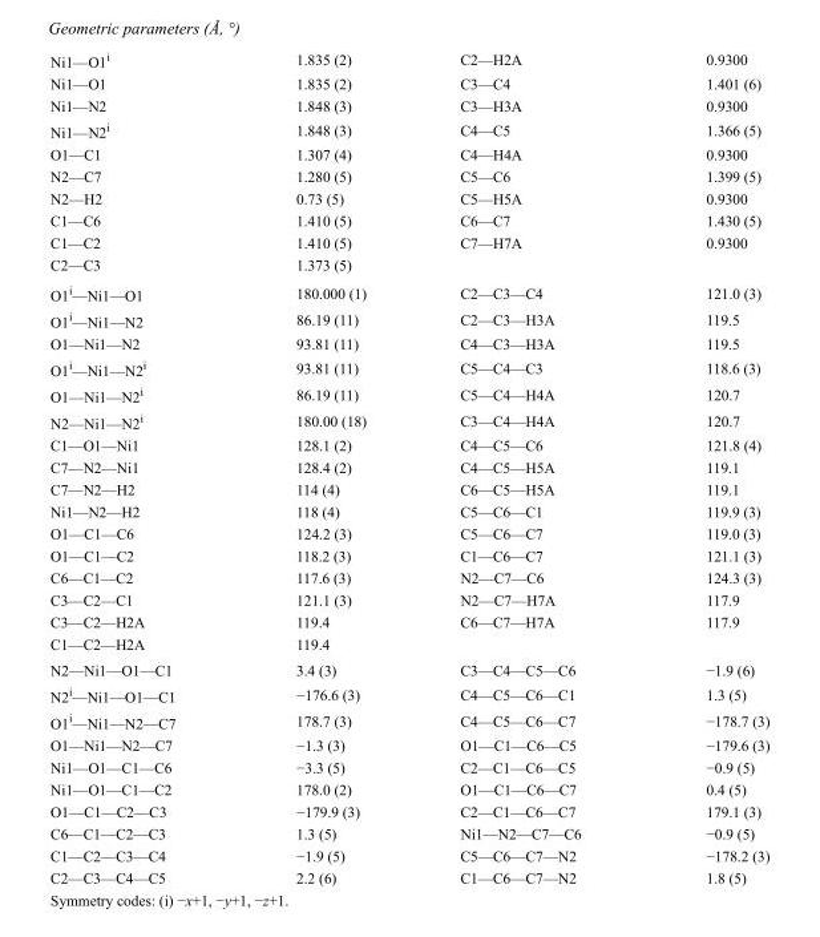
<table><tbody><tr><td>Ni1—O1<sup>i</sup></td><td>1.835 (2)</td><td>C2—H2A</td><td>0.9300</td></tr><tr><td>Ni1—O1</td><td>1.835 (2)</td><td>C3—C4</td><td>1.401 (6)</td></tr><tr><td>Ni1—N2</td><td>1.848 (3)</td><td>C3—H3A</td><td>0.9300</td></tr><tr><td>Ni1—N2<sup>i</sup></td><td>1.848 (3)</td><td>C4—C5</td><td>1.366 (5)</td></tr><tr><td>O1—C1</td><td>1.307 (4)</td><td>C4—H4A</td><td>0.9300</td></tr><tr><td>N2—C7</td><td>1.280 (5)</td><td>C5—C6</td><td>1.399 (5)</td></tr><tr><td>N2—H2</td><td>0.73 (5)</td><td>C5—H5A</td><td>0.9300</td></tr><tr><td>C1—C6</td><td>1.410 (5)</td><td>C6—C7</td><td>1.430 (5)</td></tr><tr><td>C1—C2</td><td>1.410 (5)</td><td>C7—H7A</td><td>0.9300</td></tr><tr><td>C2—C3</td><td>1.373 (5)</td><td></td><td></td></tr><tr><td>O1<sup>i</sup>—Ni1—O1</td><td>180.000 (1)</td><td>C2—C3—C4</td><td>121.0 (3)</td></tr><tr><td>O1<sup>i</sup>—Ni1—N2</td><td>86.19 (11)</td><td>C2—C3—H3A</td><td>119.5</td></tr><tr><td>O1—Ni1—N2</td><td>93.81 (11)</td><td>C4—C3—H3A</td><td>119.5</td></tr><tr><td>O1<sup>i</sup>—Ni1—N2<sup>i</sup></td><td>93.81 (11)</td><td>C5—C4—C3</td><td>118.6 (3)</td></tr><tr><td>O1—Ni1—N2<sup>i</sup></td><td>86.19 (11)</td><td>C5—C4—H4A</td><td>120.7</td></tr><tr><td>N2—Ni1—N2<sup>i</sup></td><td>180.00 (18)</td><td>C3—C4—H4A</td><td>120.7</td></tr><tr><td>C1—O1—Ni1</td><td>128.1 (2)</td><td>C4—C5—C6</td><td>121.8 (4)</td></tr><tr><td>C7—N2—Ni1</td><td>128.4 (2)</td><td>C4—C5—H5A</td><td>119.1</td></tr><tr><td>C7—N2—H2</td><td>114 (4)</td><td>C6—C5—H5A</td><td>119.1</td></tr><tr><td>Ni1—N2—H2</td><td>118 (4)</td><td>C5—C6—C1</td><td>119.9 (3)</td></tr><tr><td>O1—C1—C6</td><td>124.2 (3)</td><td>C5—C6—C7</td><td>119.0 (3)</td></tr><tr><td>O1—C1—C2</td><td>118.2 (3)</td><td>C1—C6—C7</td><td>121.1 (3)</td></tr><tr><td>C6—C1—C2</td><td>117.6 (3)</td><td>N2—C7—C6</td><td>124.3 (3)</td></tr><tr><td>C3—C2—C1</td><td>121.1 (3)</td><td>N2—C7—H7A</td><td>117.9</td></tr><tr><td>C3—C2—H2A</td><td>119.4</td><td>C6—C7—H7A</td><td>117.9</td></tr><tr><td>C1—C2—H2A</td><td>119.4</td><td></td><td></td></tr><tr><td>N2—Ni1—O1—C1</td><td>3.4 (3)</td><td>C3—C4—C5—C6</td><td>−1.9 (6)</td></tr><tr><td>N2<sup>i</sup>—Ni1—O1—C1</td><td>−176.6 (3)</td><td>C4—C5—C6—C1</td><td>1.3 (5)</td></tr><tr><td>O1<sup>i</sup>—Ni1—N2—C7</td><td>178.7 (3)</td><td>C4—C5—C6—C7</td><td>−178.7 (3)</td></tr><tr><td>O1—Ni1—N2—C7</td><td>−1.3 (3)</td><td>O1—C1—C6—C5</td><td>−179.6 (3)</td></tr><tr><td>Ni1—O1—C1—C6</td><td>−3.3 (5)</td><td>C2—C1—C6—C5</td><td>−0.9 (5)</td></tr><tr><td>Ni1—O1—C1—C2</td><td>178.0 (2)</td><td>O1—C1—C6—C7</td><td>0.4 (5)</td></tr><tr><td>O1—C1—C2—C3</td><td>−179.9 (3)</td><td>C2—C1—C6—C7</td><td>179.1 (3)</td></tr><tr><td>C6—C1—C2—C3</td><td>1.3 (5)</td><td>Ni1—N2—C7—C6</td><td>−0.9 (5)</td></tr><tr><td>C1—C2—C3—C4</td><td>−1.9 (5)</td><td>C5—C6—C7—N2</td><td>−178.2 (3)</td></tr><tr><td>C2—C3—C4—C5</td><td>2.2 (6)</td><td>C1—C6—C7—N2</td><td>1.8 (5)</td></tr></tbody></table>